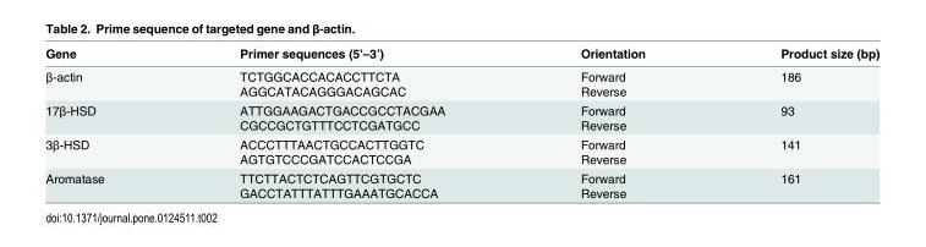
<table><thead><tr><td>Gene</td><td>Primer sequences (5’–3’)</td><td>Orientation</td><td>Product size (bp)</td></tr></thead><tbody><tr><td rowspan="2">β-actin</td><td>TCTGGCACCACACCTTCTA</td><td>Forward</td><td rowspan="2">186</td></tr><tr><td>AGGCATACAGGGACAGCAC</td><td>Reverse</td></tr><tr><td rowspan="2">17β-HSD</td><td>ATTGGAAGACTGACCGCCTACGAA</td><td>Forward</td><td rowspan="2">93</td></tr><tr><td>CGCCGCTGTTTCCTCGATGCC</td><td>Reverse</td></tr><tr><td rowspan="2">3β-HSD</td><td>ACCCTTTAACTGCCACTTGGTC</td><td>Forward</td><td rowspan="2">141</td></tr><tr><td>AGTGTCCCGATCCACTCCGA</td><td>Reverse</td></tr><tr><td rowspan="2">Aromatase</td><td>TTCTTACTCTCAGTTCGTGCTC</td><td>Forward</td><td rowspan="2">161</td></tr><tr><td>GACCTATTTATTTGAAATGCACCA</td><td>Reverse</td></tr></tbody></table>